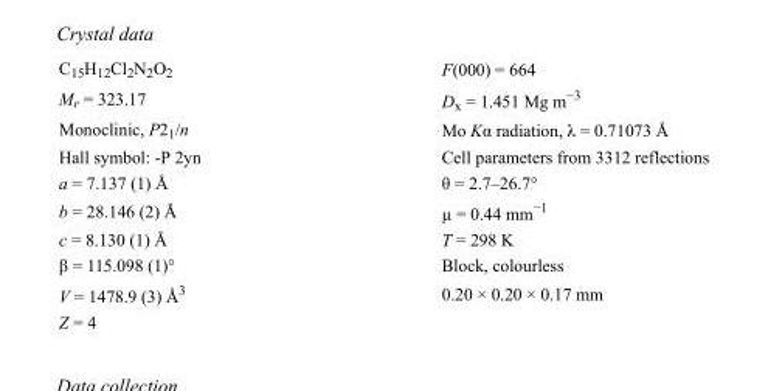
<table><tbody><tr><td>C<sub>15</sub>H<sub>12</sub>Cl<sub>2</sub>N<sub>2</sub>O<sub>2</sub></td><td>F(000) = 664</td></tr><tr><td>M<sub>r</sub> = 323.17</td><td>D<sub>x</sub> = 1.451 Mg m<sup>−3</sup></td></tr><tr><td>Monoclinic, P2<sub>1</sub>/n</td><td>Mo Kα radiation, λ = 0.71073 Å</td></tr><tr><td>Hall symbol: -P 2yn</td><td>Cell parameters from 3312 reflections</td></tr><tr><td>a = 7.137 (1) Å</td><td>θ = 2.7–26.7°</td></tr><tr><td>b = 28.146 (2) Å</td><td>µ = 0.44 mm<sup>−1</sup></td></tr><tr><td>c = 8.130 (1) Å</td><td>T = 298 K</td></tr><tr><td>β = 115.098 (1)°</td><td>Block, colourless</td></tr><tr><td>V = 1478.9 (3) Å<sup>3</sup></td><td>0.20 × 0.20 × 0.17 mm</td></tr><tr><td>Z = 4</td><td></td></tr></tbody></table>